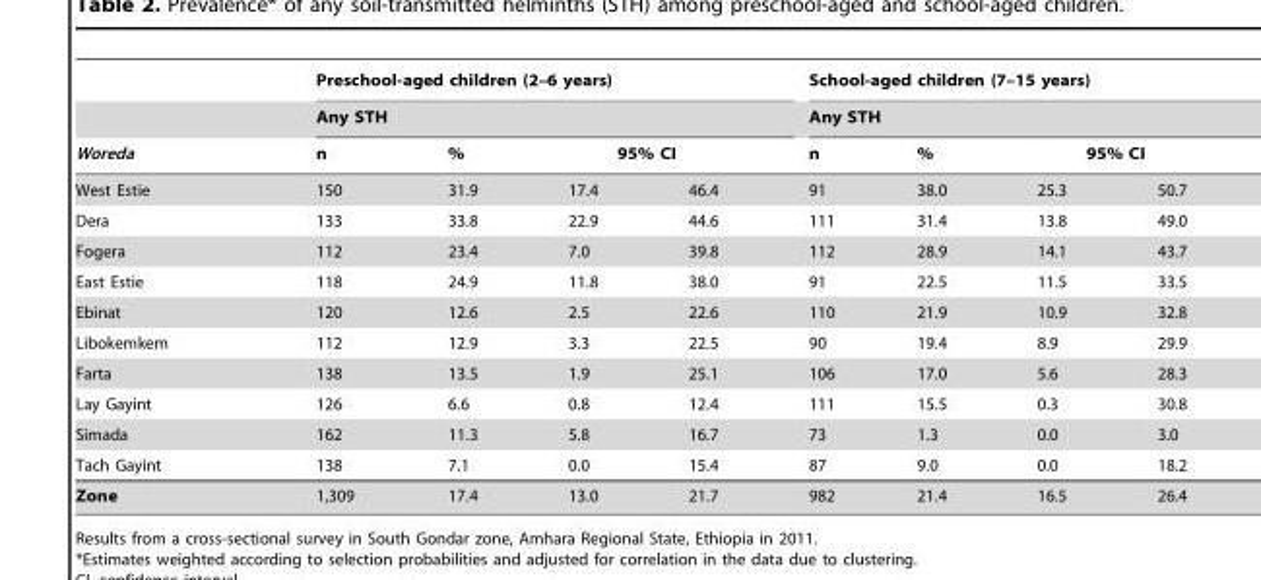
<table><thead><tr><td rowspan="4">Woreda West Estie</td><td rowspan="2" colspan="4">Preschool-aged children (2–6 years) Any STH</td><td rowspan="2" colspan="4">School-aged children (7–15 years) Any STH</td></tr><tr></tr><tr><td rowspan="2">n 150</td><td rowspan="2">% 31.9</td><td colspan="2">95% CI</td><td rowspan="2">n 91</td><td rowspan="2">% 38.0</td><td colspan="2">95% CI</td></tr><tr><td>17.4</td><td>46.4</td><td>25.3</td><td>50.7</td></tr></thead><tbody><tr><td>Dera</td><td>133</td><td>33.8</td><td>22.9</td><td>44.6</td><td>111</td><td>31.4</td><td>13.8</td><td>49.0</td></tr><tr><td>Fogera</td><td>112</td><td>23.4</td><td>7.0</td><td>39.8</td><td>112</td><td>28.9</td><td>14.1</td><td>43.7</td></tr><tr><td>East Estie</td><td>118</td><td>24.9</td><td>11.8</td><td>38.0</td><td>91</td><td>22.5</td><td>11.5</td><td>33.5</td></tr><tr><td>Ebinat</td><td>120</td><td>12.6</td><td>2.5</td><td>22.6</td><td>110</td><td>21.9</td><td>10.9</td><td>32.8</td></tr><tr><td>Libokemkem</td><td>112</td><td>12.9</td><td>3.3</td><td>22.5</td><td>90</td><td>19.4</td><td>8.9</td><td>29.9</td></tr><tr><td>Farta</td><td>138</td><td>13.5</td><td>1.9</td><td>25.1</td><td>106</td><td>17.0</td><td>5.6</td><td>28.3</td></tr><tr><td>Lay Gayint</td><td>126</td><td>6.6</td><td>0.8</td><td>12.4</td><td>111</td><td>15.5</td><td>0.3</td><td>30.8</td></tr><tr><td>Simada</td><td>162</td><td>11.3</td><td>5.8</td><td>16.7</td><td>73</td><td>1.3</td><td>0.0</td><td>3.0</td></tr><tr><td>Tach Gayint</td><td>138</td><td>7.1</td><td>0.0</td><td>15.4</td><td>87</td><td>9.0</td><td>0.0</td><td>18.2</td></tr><tr><td>Zone</td><td>1,309</td><td>17.4</td><td>13.0</td><td>21.7</td><td>982</td><td>21.4</td><td>16.5</td><td>26.4</td></tr></tbody></table>